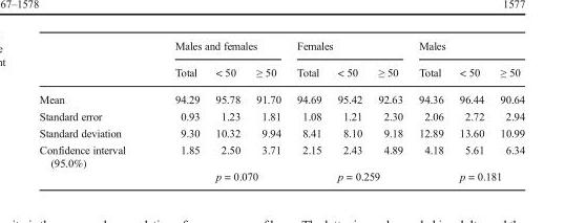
<table><thead><tr><td rowspan="2"></td><td colspan="3">Males and females</td><td colspan="3">Females</td><td colspan="3">Males</td></tr><tr><td>Total</td><td>&lt; 50</td><td>≥ 50</td><td>Total</td><td>&lt; 50</td><td>≥ 50</td><td>Total</td><td>&lt; 50</td><td>≥ 50</td></tr></thead><tbody><tr><td>Mean</td><td>94.29</td><td>95.78</td><td>91.70</td><td>94.69</td><td>95.42</td><td>92.63</td><td>94.36</td><td>96.44</td><td>90.64</td></tr><tr><td>Standard error</td><td>0.93</td><td>1.23</td><td>1.81</td><td>1.08</td><td>1.21</td><td>2.30</td><td>2.06</td><td>2.72</td><td>2.94</td></tr><tr><td>Standard deviation</td><td>9.30</td><td>10.32</td><td>9.94</td><td>8.41</td><td>8.10</td><td>9.18</td><td>12.89</td><td>13.60</td><td>10.99</td></tr><tr><td rowspan="2">Confidence interval (95.0%)</td><td>1.85</td><td>2.50</td><td>3.71</td><td>2.15</td><td>2.43</td><td>4.89</td><td>4.18</td><td>5.61</td><td>6.34</td></tr><tr><td></td><td colspan="2">p = 0.070</td><td></td><td colspan="2">p = 0.259</td><td></td><td colspan="2">p = 0.181</td></tr></tbody></table>